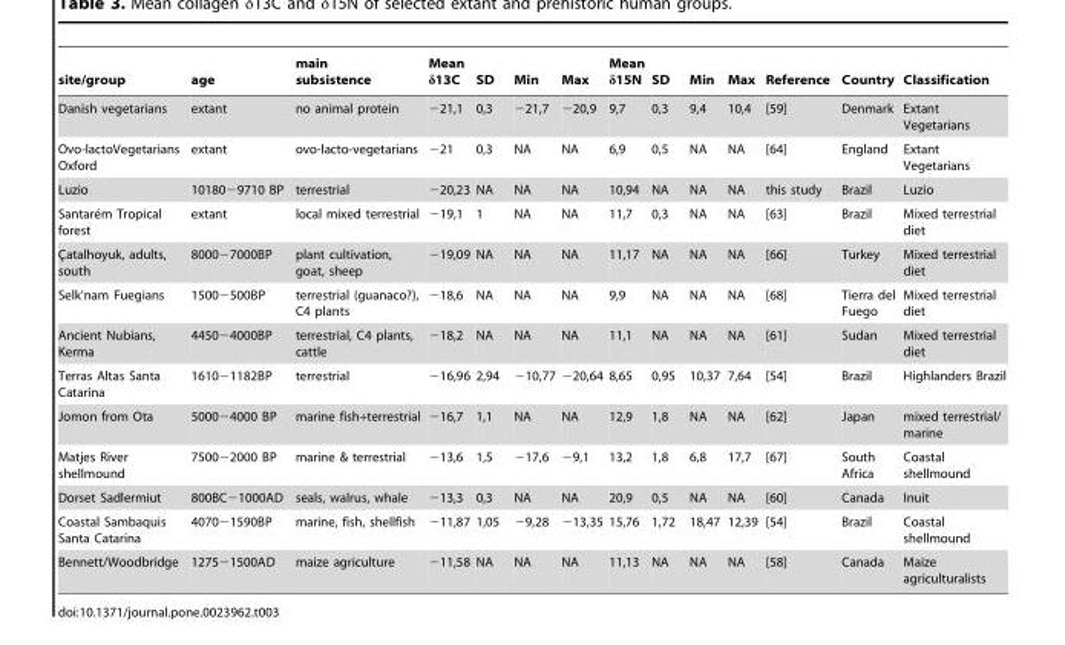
<table><thead><tr><td>site/group</td><td>age</td><td>main subsistence</td><td>Mean δ13C</td><td>SD</td><td>Min</td><td>Max</td><td>Mean δ15N</td><td>SD</td><td>Min</td><td>Max</td><td>Reference</td><td>Country</td><td>Classification</td></tr></thead><tbody><tr><td>Danish vegetarians</td><td>extant</td><td>no animal protein</td><td>−21,1</td><td>0,3</td><td>−21,7</td><td>−20,9</td><td>9,7</td><td>0,3</td><td>9,4</td><td>10,4</td><td>[59]</td><td>Denmark</td><td>Extant Vegetarians</td></tr><tr><td>Ovo-lactoVegetarians Oxford</td><td>extant</td><td>ovo-lacto-vegetarians</td><td>−21</td><td>0,3</td><td>NA</td><td>NA</td><td>6,9</td><td>0,5</td><td>NA</td><td>NA</td><td>[64]</td><td>England</td><td>Extant Vegetarians</td></tr><tr><td>Luzio</td><td>10180−9710 BP</td><td>terrestrial</td><td>−20,23</td><td>NA</td><td>NA</td><td>NA</td><td>10,94</td><td>NA</td><td>NA</td><td>NA</td><td>this study</td><td>Brazil</td><td>Luzio</td></tr><tr><td>Santare´m Tropical forest</td><td>extant</td><td>local mixed terrestrial</td><td>−19,1</td><td>1</td><td>NA</td><td>NA</td><td>11,7</td><td>0,3</td><td>NA</td><td>NA</td><td>[63]</td><td>Brazil</td><td>Mixed terrestrial diet</td></tr><tr><td>C¸atalhoyuk, adults, south</td><td>8000−7000BP</td><td>plant cultivation, goat, sheep</td><td>−19,09</td><td>NA</td><td>NA</td><td>NA</td><td>11,17</td><td>NA</td><td>NA</td><td>NA</td><td>[66]</td><td>Turkey</td><td>Mixed terrestrial diet</td></tr><tr><td>Selk’nam Fuegians</td><td>1500−500BP</td><td>terrestrial (guanaco?), C4 plants</td><td>−18,6</td><td>NA</td><td>NA</td><td>NA</td><td>9,9</td><td>NA</td><td>NA</td><td>NA</td><td>[68]</td><td>Tierra del Fuego</td><td>Mixed terrestrial diet</td></tr><tr><td>Ancient Nubians, Kerma</td><td>4450−4000BP</td><td>terrestrial, C4 plants, cattle</td><td>−18,2</td><td>NA</td><td>NA</td><td>NA</td><td>11,1</td><td>NA</td><td>NA</td><td>NA</td><td>[61]</td><td>Sudan</td><td>Mixed terrestrial diet</td></tr><tr><td>Terras Altas Santa Catarina</td><td>1610−1182BP</td><td>terrestrial</td><td>−16,96</td><td>2,94</td><td>−10,77</td><td>−20,64</td><td>8,65</td><td>0,95</td><td>10,37</td><td>7,64</td><td>[54]</td><td>Brazil</td><td>Highlanders Brazil</td></tr><tr><td>Jomon from Ota</td><td>5000−4000 BP</td><td>marine fish+terrestrial</td><td>−16,7</td><td>1,1</td><td>NA</td><td>NA</td><td>12,9</td><td>1,8</td><td>NA</td><td>NA</td><td>[62]</td><td>Japan</td><td>mixed terrestrial/ marine</td></tr><tr><td>Matjes River shellmound</td><td>7500−2000 BP</td><td>marine &amp; terrestrial</td><td>−13,6</td><td>1,5</td><td>−17,6</td><td>−9,1</td><td>13,2</td><td>1,8</td><td>6,8</td><td>17,7</td><td>[67]</td><td>South Africa</td><td>Coastal shellmound</td></tr><tr><td>Dorset Sadlermiut</td><td>800BC−1000AD</td><td>seals, walrus, whale</td><td>−13,3</td><td>0,3</td><td>NA</td><td>NA</td><td>20,9</td><td>0,5</td><td>NA</td><td>NA</td><td>[60]</td><td>Canada</td><td>Inuit</td></tr><tr><td>Coastal Sambaquis Santa Catarina</td><td>4070−1590BP</td><td>marine, fish, shellfish</td><td>−11,87</td><td>1,05</td><td>−9,28</td><td>−13,35</td><td>15,76</td><td>1,72</td><td>18,47</td><td>12,39</td><td>[54]</td><td>Brazil</td><td>Coastal shellmound</td></tr><tr><td>Bennett/Woodbridge</td><td>1275−1500AD</td><td>maize agriculture</td><td>−11,58</td><td>NA</td><td>NA</td><td>NA</td><td>11,13</td><td>NA</td><td>NA</td><td>NA</td><td>[58]</td><td>Canada</td><td>Maize agriculturalists</td></tr></tbody></table>